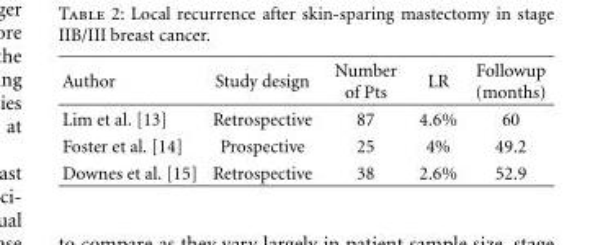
<table><thead><tr><td>Author</td><td>Study design</td><td>Number of Pts</td><td>LR</td><td>Followup (months)</td></tr></thead><tbody><tr><td>Lim et al. [13]</td><td>Retrospective</td><td>87</td><td>4.6%</td><td>60</td></tr><tr><td>Foster et al. [14]</td><td>Prospective</td><td>25</td><td>4%</td><td>49.2</td></tr><tr><td>Downes et al. [15]</td><td>Retrospective</td><td>38</td><td>2.6%</td><td>52.9</td></tr></tbody></table>